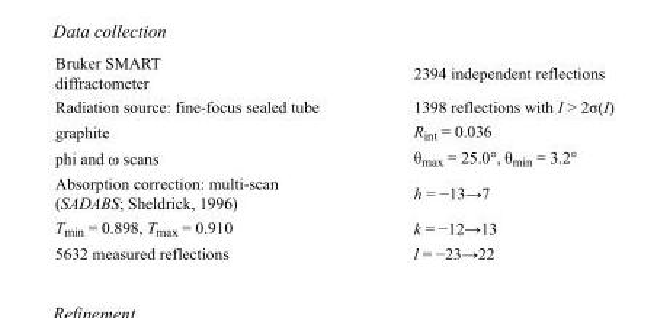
<table><tbody><tr><td>Bruker SMART diffractometer</td><td>2394 independent reflections</td></tr><tr><td>Radiation source: fine-focus sealed tube</td><td>1398 reflections with I &gt; 2σ(I)</td></tr><tr><td>graphite</td><td>R<sub>int</sub> = 0.036</td></tr><tr><td>phi and ω scans</td><td>θ<sub>max</sub> = 25.0°, θ<sub>min</sub> = 3.2°</td></tr><tr><td>Absorption correction: multi-scan (SADABS; Sheldrick, 1996)</td><td>h = −13→7</td></tr><tr><td>T<sub>min</sub> = 0.898, T<sub>max</sub> = 0.910</td><td>k = −12→13</td></tr><tr><td>5632 measured reflections</td><td>l = −23→22</td></tr></tbody></table>